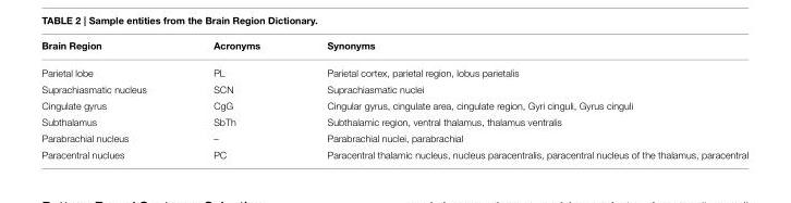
<table><thead><tr><td>Brain Region</td><td>Acronyms</td><td>Synonyms</td></tr></thead><tbody><tr><td>Parietal lobe</td><td>PL</td><td>Parietal cortex, parietal region, lobus parietalis</td></tr><tr><td>Suprachiasmatic nucleus</td><td>SCN</td><td>Suprachiasmatic nuclei</td></tr><tr><td>Cingulate gyrus</td><td>CgG</td><td>Cingular gyrus, cingulate area, cingulate region, Gyri cinguli, Gyrus cinguli</td></tr><tr><td>Subthalamus</td><td>SbTh</td><td>Subthalamic region, ventral thalamus, thalamus ventralis</td></tr><tr><td>Parabrachial nucleus</td><td>–</td><td>Parabrachial nuclei, parabrachial</td></tr><tr><td>Paracentral nuclues</td><td>PC</td><td>Paracentral thalamic nucleus, nucleus paracentralis, paracentral nucleus of the thalamus, paracentral</td></tr></tbody></table>